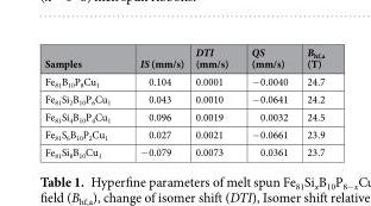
<table><thead><tr><td>Samples</td><td>IS (mm/s)</td><td>DTI (mm/s)</td><td>QS (mm/s)</td><td>B<sub>hf,a</sub> (T)</td></tr></thead><tbody><tr><td>Fe<sub>81</sub>B<sub>10</sub>P<sub>8</sub>Cu<sub>1</sub></td><td>0.104</td><td>0.0001</td><td>−0.0040</td><td>24.7</td></tr><tr><td>Fe<sub>81</sub>Si<sub>2</sub>B<sub>10</sub>P<sub>6</sub>Cu<sub>1</sub></td><td>0.043</td><td>0.0010</td><td>−0.0641</td><td>24.2</td></tr><tr><td>Fe<sub>81</sub>Si<sub>4</sub>B<sub>10</sub>P<sub>4</sub>Cu<sub>1</sub></td><td>0.096</td><td>0.0019</td><td>0.0032</td><td>24.5</td></tr><tr><td>Fe<sub>81</sub>S<sub>6</sub>B<sub>10</sub>P<sub>2</sub>Cu<sub>1</sub></td><td>0.027</td><td>0.0021</td><td>−0.0661</td><td>23.9</td></tr><tr><td>Fe<sub>81</sub>Si<sub>8</sub>B<sub>10</sub>Cu<sub>1</sub></td><td>−0.079</td><td>0.0073</td><td>0.0361</td><td>23.7</td></tr></tbody></table>